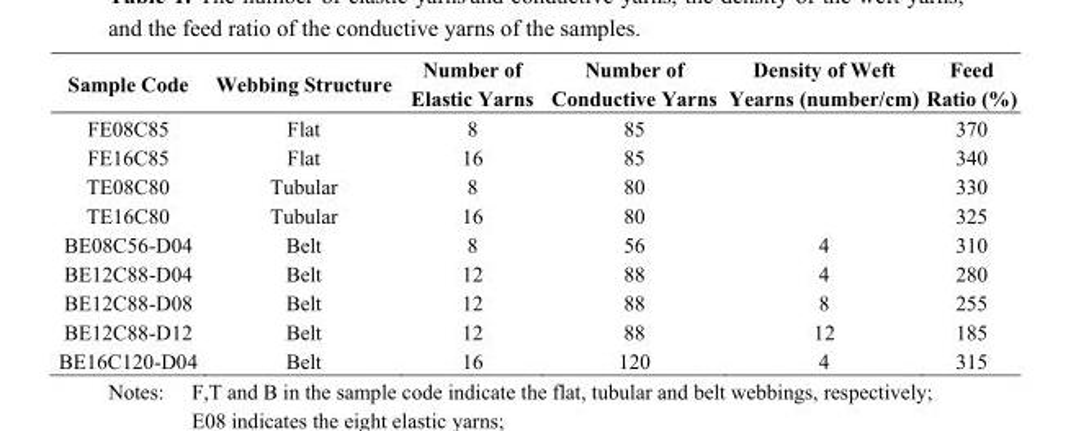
<table><thead><tr><td>Sample Code</td><td>Webbing Structure</td><td>Number of Elastic Yarns</td><td>Number of Conductive Yarns</td><td>Density of Weft Yearns (number/cm)</td><td>Feed Ratio (%)</td></tr></thead><tbody><tr><td>FE08C85</td><td>Flat</td><td>8</td><td>85</td><td></td><td>370</td></tr><tr><td>FE16C85</td><td>Flat</td><td>16</td><td>85</td><td></td><td>340</td></tr><tr><td>TE08C80</td><td>Tubular</td><td>8</td><td>80</td><td></td><td>330</td></tr><tr><td>TE16C80</td><td>Tubular</td><td>16</td><td>80</td><td></td><td>325</td></tr><tr><td>BE08C56-D04</td><td>Belt</td><td>8</td><td>56</td><td>4</td><td>310</td></tr><tr><td>BE12C88-D04</td><td>Belt</td><td>12</td><td>88</td><td>4</td><td>280</td></tr><tr><td>BE12C88-D08</td><td>Belt</td><td>12</td><td>88</td><td>8</td><td>255</td></tr><tr><td>BE12C88-D12</td><td>Belt</td><td>12</td><td>88</td><td>12</td><td>185</td></tr><tr><td>BE16C120-D04</td><td>Belt</td><td>16</td><td>120</td><td>4</td><td>315</td></tr></tbody></table>